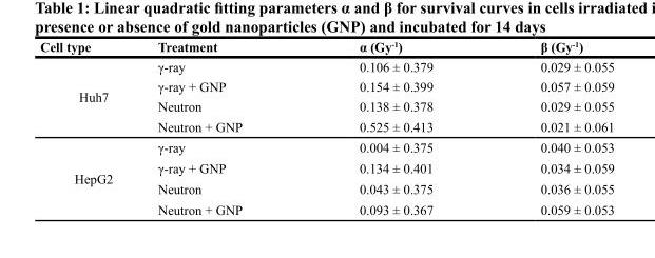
<table><thead><tr><td>Cell type</td><td>Treatment</td><td>α (Gy<sup>-1</sup>)</td><td>β (Gy<sup>-1</sup>)</td></tr></thead><tbody><tr><td rowspan="4">Huh7</td><td>γ-ray</td><td>0.106 ± 0.379</td><td>0.029 ± 0.055</td></tr><tr><td>γ-ray + GNP</td><td>0.154 ± 0.399</td><td>0.057 ± 0.059</td></tr><tr><td>Neutron</td><td>0.138 ± 0.378</td><td>0.029 ± 0.055</td></tr><tr><td>Neutron + GNP</td><td>0.525 ± 0.413</td><td>0.021 ± 0.061</td></tr><tr><td rowspan="4">HepG2</td><td>γ-ray</td><td>0.004 ± 0.375</td><td>0.040 ± 0.053</td></tr><tr><td>γ-ray + GNP</td><td>0.134 ± 0.401</td><td>0.034 ± 0.059</td></tr><tr><td>Neutron</td><td>0.043 ± 0.375</td><td>0.036 ± 0.055</td></tr><tr><td>Neutron + GNP</td><td>0.093 ± 0.367</td><td>0.059 ± 0.053</td></tr></tbody></table>